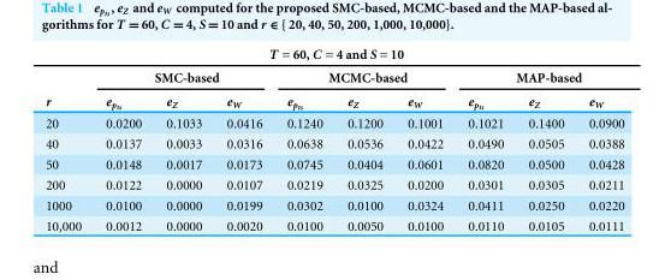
<table><thead><tr><td colspan="10">T = 60, C = 4 and S = 10</td></tr><tr><td rowspan="2">r</td><td colspan="3">SMC-based</td><td colspan="3">MCMC-based</td><td colspan="3">MAP-based</td></tr><tr><td>epts</td><td>e<sub>Z</sub></td><td>e<sub>W</sub></td><td>epts</td><td>e<sub>Z</sub></td><td>e<sub>W</sub></td><td>epts</td><td>e<sub>Z</sub></td><td>e<sub>W</sub></td></tr></thead><tbody><tr><td>20</td><td>0.0200</td><td>0.1033</td><td>0.0416</td><td>0.1240</td><td>0.1200</td><td>0.1001</td><td>0.1021</td><td>0.1400</td><td>0.0900</td></tr><tr><td>40</td><td>0.0137</td><td>0.0033</td><td>0.0316</td><td>0.0638</td><td>0.0536</td><td>0.0422</td><td>0.0490</td><td>0.0505</td><td>0.0388</td></tr><tr><td>50</td><td>0.0148</td><td>0.0017</td><td>0.0173</td><td>0.0745</td><td>0.0404</td><td>0.0601</td><td>0.0820</td><td>0.0500</td><td>0.0428</td></tr><tr><td>200</td><td>0.0122</td><td>0.0000</td><td>0.0107</td><td>0.0219</td><td>0.0325</td><td>0.0200</td><td>0.0301</td><td>0.0305</td><td>0.0211</td></tr><tr><td>1000</td><td>0.0100</td><td>0.0000</td><td>0.0199</td><td>0.0302</td><td>0.0100</td><td>0.0324</td><td>0.0411</td><td>0.0250</td><td>0.0220</td></tr><tr><td>10,000</td><td>0.0012</td><td>0.0000</td><td>0.0020</td><td>0.0100</td><td>0.0050</td><td>0.0100</td><td>0.0110</td><td>0.0105</td><td>0.0111</td></tr></tbody></table>